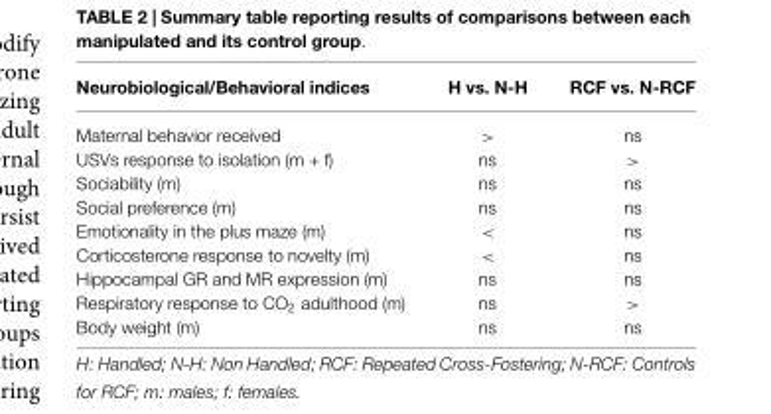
<table><thead><tr><td>Neurobiological/Behavioral indices</td><td>H vs. N-H</td><td>RCF vs. N-RCF</td></tr></thead><tbody><tr><td>Maternal behavior received</td><td>&gt;</td><td>ns</td></tr><tr><td>USVs response to isolation (m + f)</td><td>ns</td><td>&gt;</td></tr><tr><td>Sociability (m)</td><td>ns</td><td>ns</td></tr><tr><td>Social preference (m)</td><td>ns</td><td>ns</td></tr><tr><td>Emotionality in the plus maze (m)</td><td>&lt;</td><td>ns</td></tr><tr><td>Corticosterone response to novelty (m)</td><td>&lt;</td><td>ns</td></tr><tr><td>Hippocampal GR and MR expression (m)</td><td>ns</td><td>ns</td></tr><tr><td>Respiratory response to CO<sub>2</sub> adulthood (m)</td><td>ns</td><td>&gt;</td></tr><tr><td>Body weight (m)</td><td>ns</td><td>ns</td></tr></tbody></table>